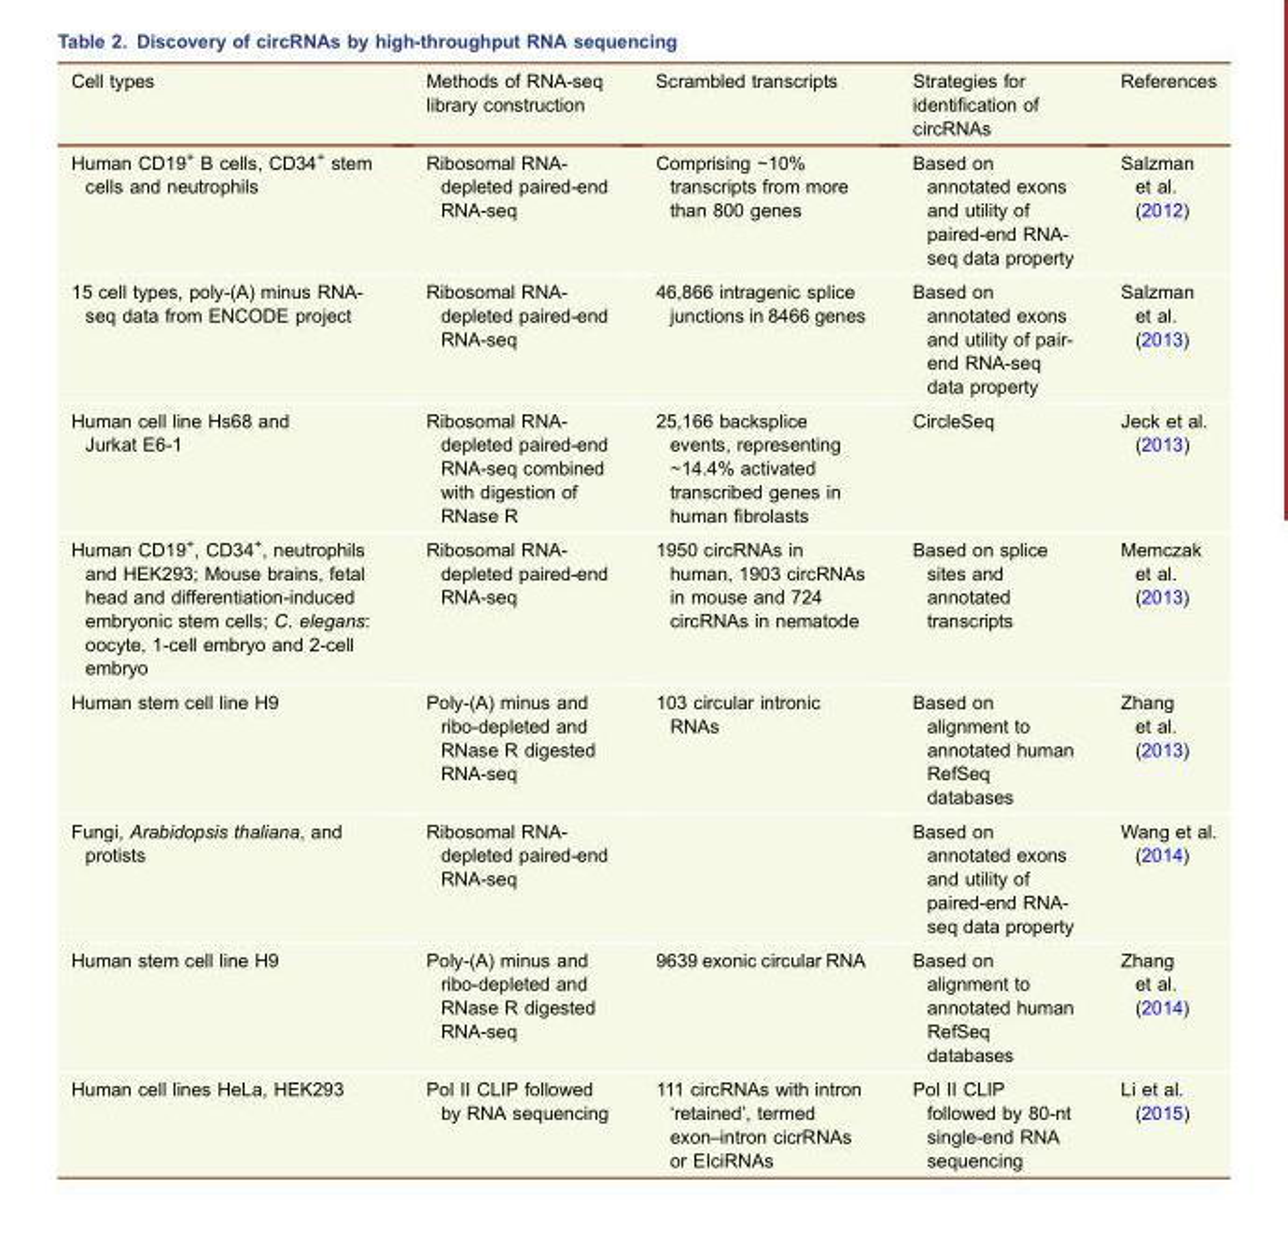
<table><thead><tr><td>Cell types</td><td>Methods of RNA-seq library construction</td><td>Scrambled transcripts</td><td>Strategies for identification of circRNAs</td><td>References</td></tr></thead><tbody><tr><td>Human CD19<sup>+</sup> B cells, CD34<sup>+</sup> stem cells and neutrophils</td><td>Ribosomal RNA- depleted paired-end RNA-seq</td><td>Comprising ∼10% transcripts from more than 800 genes</td><td>Based on annotated exons and utility of paired-end RNA- seq data property</td><td>Salzman et al. (2012)</td></tr><tr><td>15 cell types, poly-(A) minus RNA- seq data from ENCODE project</td><td>Ribosomal RNA- depleted paired-end RNA-seq</td><td>46,866 intragenic splice junctions in 8466 genes</td><td>Based on annotated exons and utility of pair- end RNA-seq data property</td><td>Salzman et al. (2013)</td></tr><tr><td>Human cell line Hs68 and Jurkat E6-1</td><td>Ribosomal RNA- depleted paired-end RNA-seq combined with digestion of RNase R</td><td>25,166 backsplice events, representing ∼14.4% activated transcribed genes in human fibrolasts</td><td>CircleSeq</td><td>Jeck et al. (2013)</td></tr><tr><td>Human CD19<sup>+</sup>, CD34<sup>+</sup>, neutrophils and HEK293; Mouse brains, fetal head and differentiation-induced embryonic stem cells; C. elegans: oocyte, 1-cell embryo and 2-cell embryo</td><td>Ribosomal RNA- depleted paired-end RNA-seq</td><td>1950 circRNAs in human, 1903 circRNAs in mouse and 724 circRNAs in nematode</td><td>Based on splice sites and annotated transcripts</td><td>Memczak et al. (2013)</td></tr><tr><td>Human stem cell line H9</td><td>Poly-(A) minus and ribo-depleted and RNase R digested RNA-seq</td><td>103 circular intronic RNAs</td><td>Based on alignment to annotated human RefSeq databases</td><td>Zhang et al. (2013)</td></tr><tr><td>Fungi, Arabidopsis thaliana, and protists</td><td>Ribosomal RNA- depleted paired-end RNA-seq</td><td></td><td>Based on annotated exons and utility of paired-end RNA- seq data property</td><td>Wang et al. (2014)</td></tr><tr><td>Human stem cell line H9</td><td>Poly-(A) minus and ribo-depleted and RNase R digested RNA-seq</td><td>9639 exonic circular RNA</td><td>Based on alignment to annotated human RefSeq databases</td><td>Zhang et al. (2014)</td></tr><tr><td>Human cell lines HeLa, HEK293</td><td>Pol II CLIP followed by RNA sequencing</td><td>111 circRNAs with intron ‘retained’, termed exon–intron cicrRNAs or EIciRNAs</td><td>Pol II CLIP followed by 80-nt single-end RNA sequencing</td><td>Li et al. (2015)</td></tr></tbody></table>